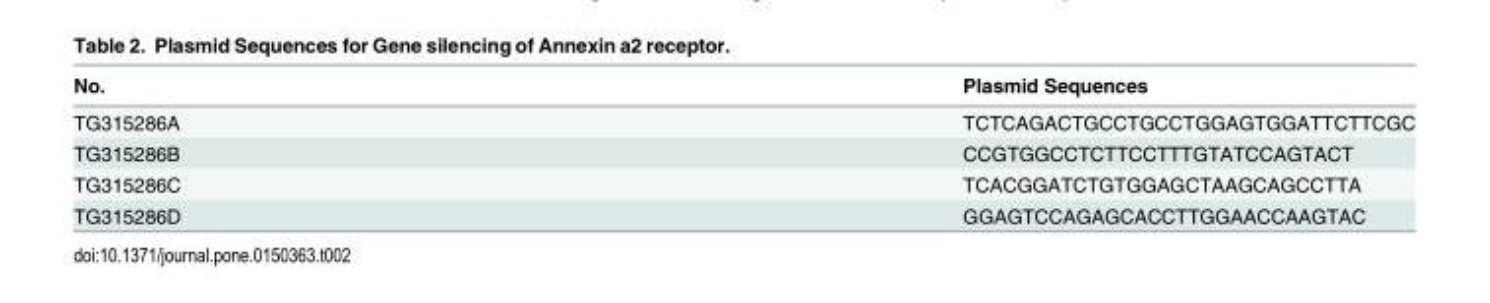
<table><thead><tr><td>No.</td><td>Plasmid Sequences</td></tr></thead><tbody><tr><td>TG315286A</td><td>TCTCAGACTGCCTGCCTGGAGTGGATTCTTCGC</td></tr><tr><td>TG315286B</td><td>CCGTGGCCTCTTCCTTTGTATCCAGTACT</td></tr><tr><td>TG315286C</td><td>TCACGGATCTGTGGAGCTAAGCAGCCTTA</td></tr><tr><td>TG315286D</td><td>GGAGTCCAGAGCACCTTGGAACCAAGTAC</td></tr></tbody></table>